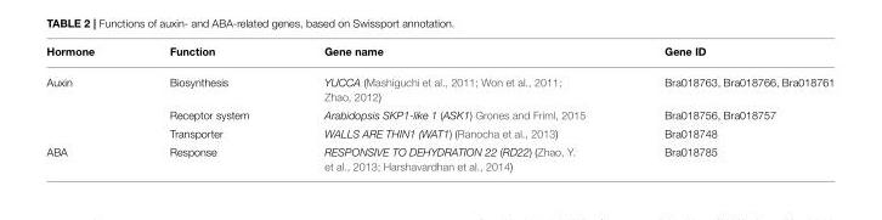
<table><thead><tr><td>Hormone</td><td>Function</td><td>Gene name</td><td>Gene ID</td></tr></thead><tbody><tr><td rowspan="3">Auxin</td><td>Biosynthesis</td><td>YUCCA (Mashiguchi et al., 2011; Won et al., 2011; Zhao, 2012)</td><td>Bra018763, Bra018766, Bra018761</td></tr><tr><td>Receptor system</td><td>Arabidopsis SKP1-like 1 (ASK1) Grones and Friml, 2015</td><td>Bra018756, Bra018757</td></tr><tr><td>Transporter</td><td>WALLS ARE THIN1 (WAT1) (Ranocha et al., 2013)</td><td>Bra018748</td></tr><tr><td>ABA</td><td>Response</td><td>RESPONSIVE TO DEHYDRATION 22 (RD22) (Zhao, Y. et al., 2013; Harshavardhan et al., 2014)</td><td>Bra018785</td></tr></tbody></table>